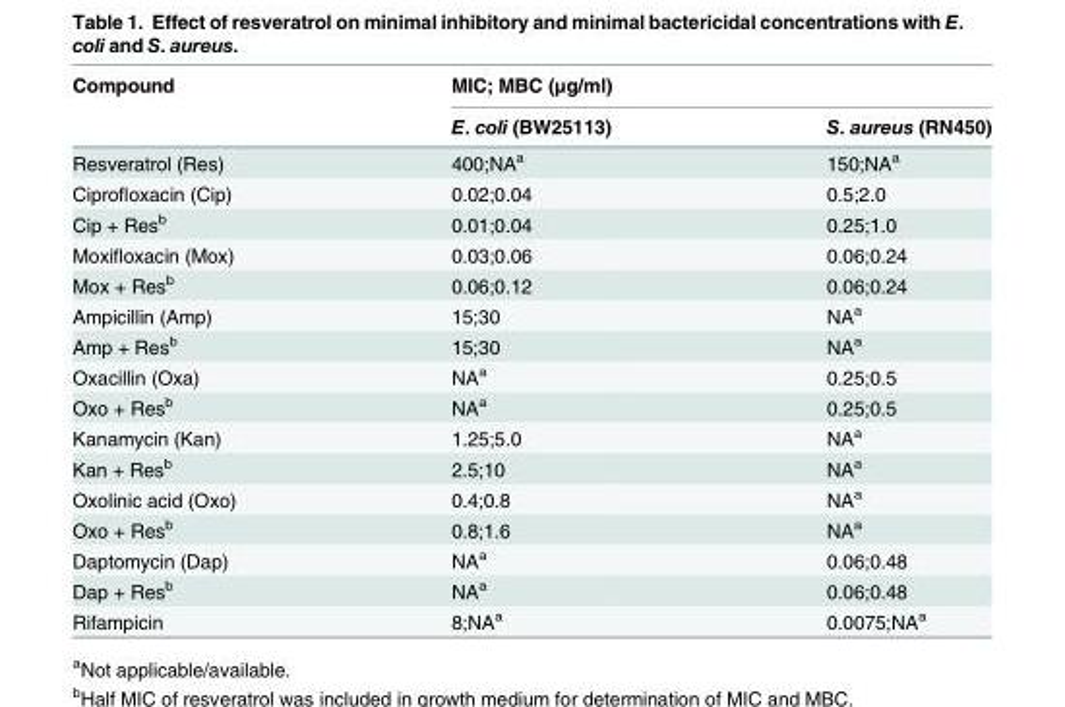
<table><thead><tr><td rowspan="2">Compound</td><td colspan="2">MIC; MBC (μg/ml)</td></tr><tr><td>E. coli (BW25113)</td><td>S. aureus (RN450)</td></tr></thead><tbody><tr><td>Resveratrol (Res)</td><td>400;NA<sup>a</sup></td><td>150;NA<sup>a</sup></td></tr><tr><td>Ciprofloxacin (Cip)</td><td>0.02;0.04</td><td>0.5;2.0</td></tr><tr><td>Cip + Res<sup>b</sup></td><td>0.01;0.04</td><td>0.25;1.0</td></tr><tr><td>Moxifloxacin (Mox)</td><td>0.03;0.06</td><td>0.06;0.24</td></tr><tr><td>Mox + Res<sup>b</sup></td><td>0.06;0.12</td><td>0.06;0.24</td></tr><tr><td>Ampicillin (Amp)</td><td>15;30</td><td>NA<sup>a</sup></td></tr><tr><td>Amp + Res<sup>b</sup></td><td>15;30</td><td>NA<sup>a</sup></td></tr><tr><td>Oxacillin (Oxa)</td><td>NA<sup>a</sup></td><td>0.25;0.5</td></tr><tr><td>Oxo + Res<sup>b</sup></td><td>NA<sup>a</sup></td><td>0.25;0.5</td></tr><tr><td>Kanamycin (Kan)</td><td>1.25;5.0</td><td>NA<sup>a</sup></td></tr><tr><td>Kan + Res<sup>b</sup></td><td>2.5;10</td><td>NA<sup>a</sup></td></tr><tr><td>Oxolinic acid (Oxo)</td><td>0.4;0.8</td><td>NA<sup>a</sup></td></tr><tr><td>Oxo + Res<sup>b</sup></td><td>0.8;1.6</td><td>NA<sup>a</sup></td></tr><tr><td>Daptomycin (Dap)</td><td>NA<sup>a</sup></td><td>0.06;0.48</td></tr><tr><td>Dap + Res<sup>b</sup></td><td>NA<sup>a</sup></td><td>0.06;0.48</td></tr><tr><td>Rifampicin</td><td>8;NA<sup>a</sup></td><td>0.0075;NA<sup>a</sup></td></tr></tbody></table>